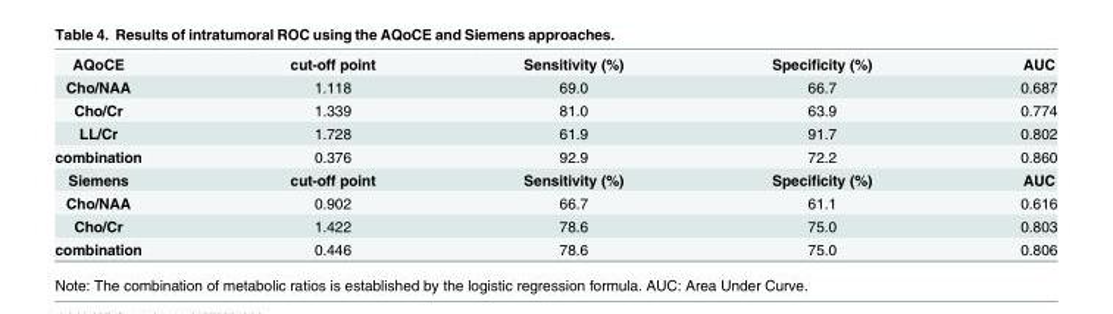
<table><tbody><tr><td>AQoCE</td><td>cut-off point</td><td>Sensitivity (%)</td><td>Specificity (%)</td><td>AUC</td></tr><tr><td>Cho/NAA</td><td>1.118</td><td>69.0</td><td>66.7</td><td>0.687</td></tr><tr><td>Cho/Cr</td><td>1.339</td><td>81.0</td><td>63.9</td><td>0.774</td></tr><tr><td>LL/Cr</td><td>1.728</td><td>61.9</td><td>91.7</td><td>0.802</td></tr><tr><td>combination</td><td>0.376</td><td>92.9</td><td>72.2</td><td>0.860</td></tr><tr><td>Siemens</td><td>cut-off point</td><td>Sensitivity (%)</td><td>Specificity (%)</td><td>AUC</td></tr><tr><td>Cho/NAA</td><td>0.902</td><td>66.7</td><td>61.1</td><td>0.616</td></tr><tr><td>Cho/Cr</td><td>1.422</td><td>78.6</td><td>75.0</td><td>0.803</td></tr><tr><td>combination</td><td>0.446</td><td>78.6</td><td>75.0</td><td>0.806</td></tr></tbody></table>